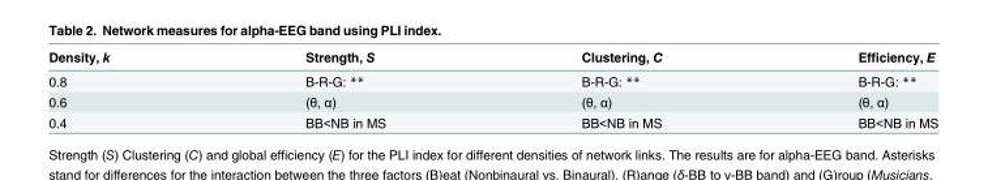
<table><thead><tr><td>Density, k</td><td>Strength, S</td><td>Clustering, C</td><td>Efficiency, E</td></tr></thead><tbody><tr><td>0.8</td><td>B-R-G: **</td><td>B-R-G: **</td><td>B-R-G: **</td></tr><tr><td>0.6</td><td>(θ, α)</td><td>(θ, α)</td><td>(θ, α)</td></tr><tr><td>0.4</td><td>BB&lt;NB in MS</td><td>BB&lt;NB in MS</td><td>BB&lt;NB in MS</td></tr></tbody></table>